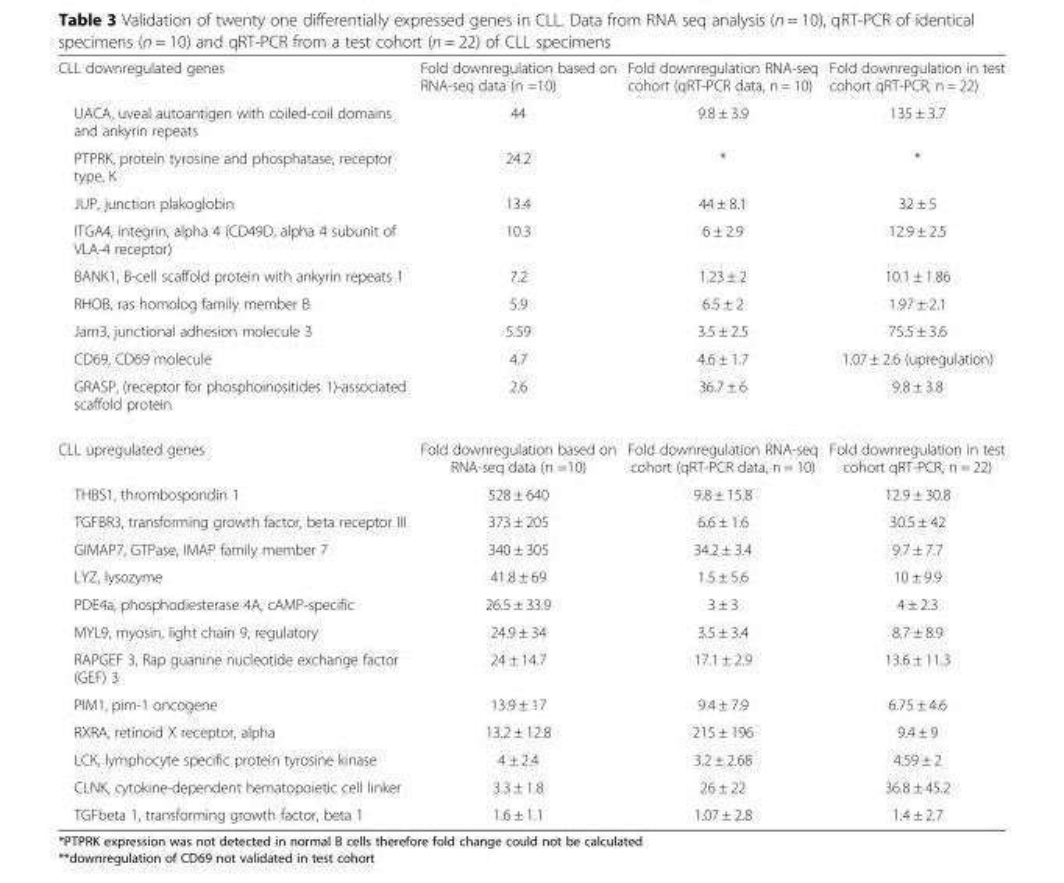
<table><tbody><tr><td>CLL downregulated genes</td><td>Fold downregulation based on RNA-seq data (n =10)</td><td>Fold downregulation RNA-seq cohort (qRT-PCR data, n = 10)</td><td>Fold downregulation in test cohort qRT-PCR, n = 22)</td></tr><tr><td>UACA, uveal autoantigen with coiled-coil domains and ankyrin repeats</td><td>44</td><td>9.8 ± 3.9</td><td>135 ± 3.7</td></tr><tr><td>PTPRK, protein tyrosine and phosphatase, receptor type, K</td><td>24.2</td><td>*</td><td>*</td></tr><tr><td>JUP, junction plakoglobin</td><td>13.4</td><td>44 ± 8.1</td><td>32 ± 5</td></tr><tr><td>ITGA4, integrin, alpha 4 (CD49D, alpha 4 subunit of VLA-4 receptor)</td><td>10.3</td><td>6 ± 2.9</td><td>12.9 ± 2.5</td></tr><tr><td>BANK1, B-cell scaffold protein with ankyrin repeats 1</td><td>7.2</td><td>1.23 ± 2</td><td>10.1 ± 1.86</td></tr><tr><td>RHOB, ras homolog family member B</td><td>5.9</td><td>6.5 ± 2</td><td>1.97 ± 2.1</td></tr><tr><td>Jam3, junctional adhesion molecule 3</td><td>5.59</td><td>3.5 ± 2.5</td><td>75.5 ± 3.6</td></tr><tr><td>CD69, CD69 molecule</td><td>4.7</td><td>4.6 ± 1.7</td><td>1.07 ± 2.6 (upregulation)</td></tr><tr><td>GRASP, (receptor for phosphoinositides 1)-associated scaffold protein</td><td>2.6</td><td>36.7 ± 6</td><td>9.8 ± 3.8</td></tr><tr><td>CLL upregulated genes</td><td>Fold downregulation based on RNA-seq data (n =10)</td><td>Fold downregulation RNA-seq cohort (qRT-PCR data, n = 10)</td><td>Fold downregulation in test cohort qRT-PCR, n = 22)</td></tr><tr><td>THBS1, thrombospondin 1</td><td>528 ± 640</td><td>9.8 ± 15.8</td><td>12.9 ± 30.8</td></tr><tr><td>TGFBR3, transforming growth factor, beta receptor III</td><td>373 ± 205</td><td>6.6 ± 1.6</td><td>30.5 ± 42</td></tr><tr><td>GIMAP7, GTPase, IMAP family member 7</td><td>340 ± 305</td><td>34.2 ± 3.4</td><td>9.7 ± 7.7</td></tr><tr><td>LYZ, lysozyme</td><td>41.8 ± 69</td><td>1.5 ± 5.6</td><td>10 ± 9.9</td></tr><tr><td>PDE4a, phosphodiesterase 4A, cAMP-specific</td><td>26.5 ± 33.9</td><td>3 ± 3</td><td>4 ± 2.3</td></tr><tr><td>MYL9, myosin, light chain 9, regulatory</td><td>24.9 ± 34</td><td>3.5 ± 3.4</td><td>8.7 ± 8.9</td></tr><tr><td>RAPGEF 3, Rap guanine nucleotide exchange factor (GEF) 3</td><td>24 ± 14.7</td><td>17.1 ± 2.9</td><td>13.6 ± 11.3</td></tr><tr><td>PIM1, pim-1 oncogene</td><td>13.9 ± 17</td><td>9.4 ± 7.9</td><td>6.75 ± 4.6</td></tr><tr><td>RXRA, retinoid X receptor, alpha</td><td>13.2 ± 12.8</td><td>215 ± 196</td><td>9.4 ± 9</td></tr><tr><td>LCK, lymphocyte specific protein tyrosine kinase</td><td>4 ± 2.4</td><td>3.2 ± 2.68</td><td>4.59 ± 2</td></tr><tr><td>CLNK, cytokine-dependent hematopoietic cell linker</td><td>3.3 ± 1.8</td><td>26 ± 22</td><td>36.8 ± 45.2</td></tr><tr><td>TGFbeta 1, transforming growth factor, beta 1</td><td>1.6 ± 1.1</td><td>1.07 ± 2.8</td><td>1.4 ± 2.7</td></tr></tbody></table>